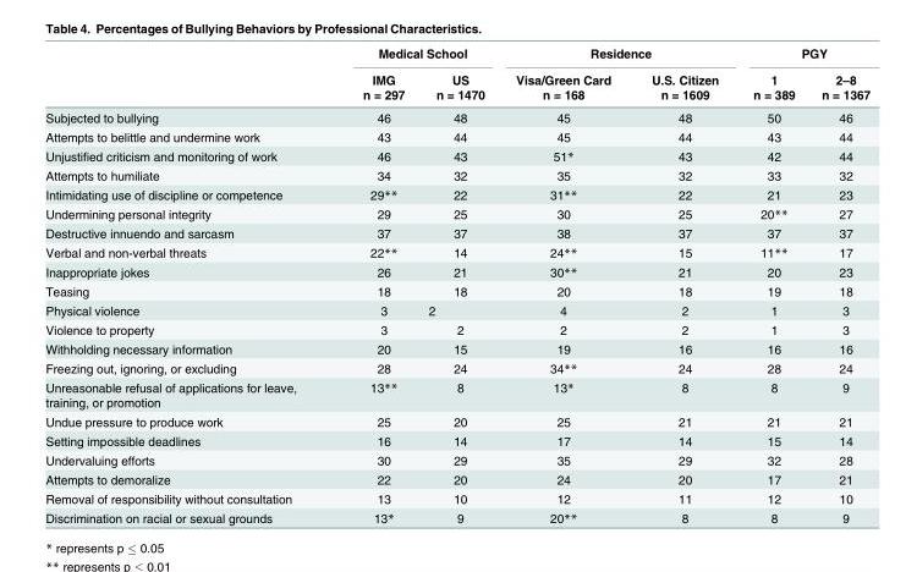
<table><thead><tr><td rowspan="2"></td><td colspan="2">Medical School</td><td colspan="2">Residence</td><td colspan="2">PGY</td></tr><tr><td>IMG n = 297</td><td>US n = 1470</td><td>Visa/Green Card n = 168</td><td>U.S. Citizen n = 1609</td><td>1 n = 389</td><td>2–8 n = 1367</td></tr></thead><tbody><tr><td>Subjected to bullying</td><td>46</td><td>48</td><td>45</td><td>48</td><td>50</td><td>46</td></tr><tr><td>Attempts to belittle and undermine work</td><td>43</td><td>44</td><td>45</td><td>44</td><td>43</td><td>44</td></tr><tr><td>Unjustified criticism and monitoring of work</td><td>46</td><td>43</td><td>51*</td><td>43</td><td>42</td><td>44</td></tr><tr><td>Attempts to humiliate</td><td>34</td><td>32</td><td>35</td><td>32</td><td>33</td><td>32</td></tr><tr><td>Intimidating use of discipline or competence</td><td>29**</td><td>22</td><td>31**</td><td>22</td><td>21</td><td>23</td></tr><tr><td>Undermining personal integrity</td><td>29</td><td>25</td><td>30</td><td>25</td><td>20**</td><td>27</td></tr><tr><td>Destructive innuendo and sarcasm</td><td>37</td><td>37</td><td>38</td><td>37</td><td>37</td><td>37</td></tr><tr><td>Verbal and non-verbal threats</td><td>22**</td><td>14</td><td>24**</td><td>15</td><td>11**</td><td>17</td></tr><tr><td>Inappropriate jokes</td><td>26</td><td>21</td><td>30**</td><td>21</td><td>20</td><td>23</td></tr><tr><td>Teasing</td><td>18</td><td>18</td><td>20</td><td>18</td><td>19</td><td>18</td></tr><tr><td>Physical violence</td><td>3</td><td>2</td><td>4</td><td>2</td><td>1</td><td>3</td></tr><tr><td>Violence to property</td><td>3</td><td>2</td><td>2</td><td>2</td><td>1</td><td>3</td></tr><tr><td>Withholding necessary information</td><td>20</td><td>15</td><td>19</td><td>16</td><td>16</td><td>16</td></tr><tr><td>Freezing out, ignoring, or excluding</td><td>28</td><td>24</td><td>34**</td><td>24</td><td>28</td><td>24</td></tr><tr><td>Unreasonable refusal of applications for leave, training, or promotion</td><td>13**</td><td>8</td><td>13*</td><td>8</td><td>8</td><td>9</td></tr><tr><td>Undue pressure to produce work</td><td>25</td><td>20</td><td>25</td><td>21</td><td>21</td><td>21</td></tr><tr><td>Setting impossible deadlines</td><td>16</td><td>14</td><td>17</td><td>14</td><td>15</td><td>14</td></tr><tr><td>Undervaluing efforts</td><td>30</td><td>29</td><td>35</td><td>29</td><td>32</td><td>28</td></tr><tr><td>Attempts to demoralize</td><td>22</td><td>20</td><td>24</td><td>20</td><td>17</td><td>21</td></tr><tr><td>Removal of responsibility without consultation</td><td>13</td><td>10</td><td>12</td><td>11</td><td>12</td><td>10</td></tr><tr><td>Discrimination on racial or sexual grounds</td><td>13*</td><td>9</td><td>20**</td><td>8</td><td>8</td><td>9</td></tr></tbody></table>